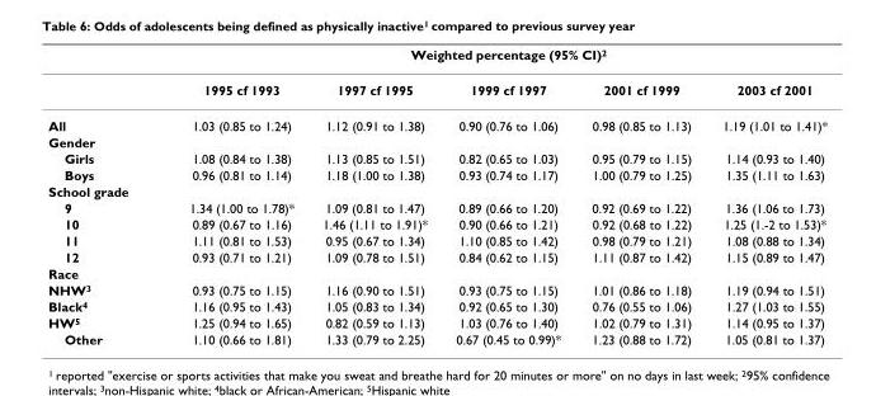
<table><thead><tr><td rowspan="2"></td><td colspan="5">Weighted percentage (95% CI)2</td></tr><tr><td>1995 cf 1993</td><td>1997 cf 1995</td><td>1999 cf 1997</td><td>2001 cf 1999</td><td>2003 cf 2001</td></tr></thead><tbody><tr><td>All</td><td>1.03 (0.85 to 1.24)</td><td>1.12 (0.91 to 1.38)</td><td>0.90 (0.76 to 1.06)</td><td>0.98 (0.85 to 1.13)</td><td>1.19 (1.01 to 1.41)*</td></tr><tr><td colspan="6">Gender</td></tr><tr><td>Girls</td><td>1.08 (0.84 to 1.38)</td><td>1.13 (0.85 to 1.51)</td><td>0.82 (0.65 to 1.03)</td><td>0.95 (0.79 to 1.15)</td><td>1.14 (0.93 to 1.40)</td></tr><tr><td>Boys</td><td>0.96 (0.81 to 1.14)</td><td>1.18 (1.00 to 1.38)</td><td>0.93 (0.74 to 1.17)</td><td>1.00 (0.79 to 1.25)</td><td>1.35 (1.11 to 1.63)</td></tr><tr><td colspan="6">School grade</td></tr><tr><td>9</td><td>1.34 (1.00 to 1.78)*</td><td>1.09 (0.81 to 1.47)</td><td>0.89 (0.66 to 1.20)</td><td>0.92 (0.69 to 1.22)</td><td>1.36 (1.06 to 1.73)</td></tr><tr><td>10</td><td>0.89 (0.67 to 1.16)</td><td>1.46 (1.11 to 1.91)*</td><td>0.90 (0.66 to 1.21)</td><td>0.92 (0.68 to 1.22)</td><td>1.25 (1.-2 to 1.53)*</td></tr><tr><td>11</td><td>1.11 (0.81 to 1.53)</td><td>0.95 (0.67 to 1.34)</td><td>1.10 (0.85 to 1.42)</td><td>0.98 (0.79 to 1.21)</td><td>1.08 (0.88 to 1.34)</td></tr><tr><td>12</td><td>0.93 (0.71 to 1.21)</td><td>1.09 (0.78 to 1.51)</td><td>0.84 (0.62 to 1.15)</td><td>1.11 (0.87 to 1.42)</td><td>1.15 (0.89 to 1.47)</td></tr><tr><td colspan="6">Race</td></tr><tr><td>NHW3</td><td>0.93 (0.75 to 1.15)</td><td>1.16 (0.90 to 1.51)</td><td>0.93 (0.75 to 1.15)</td><td>1.01 (0.86 to 1.18)</td><td>1.19 (0.94 to 1.51)</td></tr><tr><td>Black4</td><td>1.16 (0.95 to 1.43)</td><td>1.05 (0.83 to 1.34)</td><td>0.92 (0.65 to 1.30)</td><td>0.76 (0.55 to 1.06)</td><td>1.27 (1.03 to 1.55)</td></tr><tr><td>HW5</td><td>1.25 (0.94 to 1.65)</td><td>0.82 (0.59 to 1.13)</td><td>1.03 (0.76 to 1.40)</td><td>1.02 (0.79 to 1.31)</td><td>1.14 (0.95 to 1.37)</td></tr><tr><td>Other</td><td>1.10 (0.66 to 1.81)</td><td>1.33 (0.79 to 2.25)</td><td>0.67 (0.45 to 0.99)*</td><td>1.23 (0.88 to 1.72)</td><td>1.05 (0.81 to 1.37)</td></tr></tbody></table>